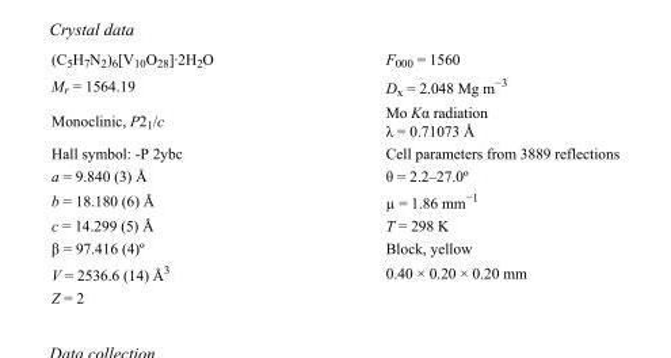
<table><tbody><tr><td>(C<sub>5</sub>H<sub>7</sub>N<sub>2</sub>)<sub>6</sub>[V<sub>10</sub>O<sub>28</sub>]·2H<sub>2</sub>O</td><td>F000 = 1560</td></tr><tr><td>M<sub>r</sub> = 1564.19</td><td>D<sub>x</sub> = 2.048 Mg m<sup>−3</sup></td></tr><tr><td>Monoclinic, P2<sub>1</sub>/c</td><td>Mo Kα radiation λ = 0.71073 Å</td></tr><tr><td>Hall symbol: -P 2ybc</td><td>Cell parameters from 3889 reflections</td></tr><tr><td>a = 9.840 (3) Å</td><td>θ = 2.2–27.0º</td></tr><tr><td>b = 18.180 (6) Å</td><td>µ = 1.86 mm<sup>−1</sup></td></tr><tr><td>c = 14.299 (5) Å</td><td>T = 298 K</td></tr><tr><td>β = 97.416 (4)º</td><td>Block, yellow</td></tr><tr><td>V = 2536.6 (14) Å<sup>3</sup></td><td>0.40 × 0.20 × 0.20 mm</td></tr><tr><td>Z = 2</td><td></td></tr></tbody></table>